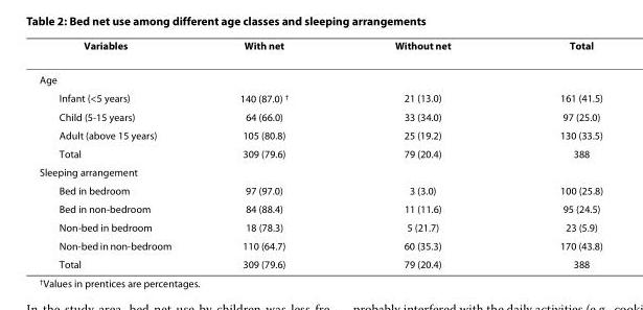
<table><thead><tr><td>Variables</td><td>With net</td><td>Without net</td><td>Total</td></tr></thead><tbody><tr><td colspan="4">Age</td></tr><tr><td>Infant (&lt;5 years)</td><td>140 (87.0) <sup>†</sup></td><td>21 (13.0)</td><td>161 (41.5)</td></tr><tr><td>Child (5-15 years)</td><td>64 (66.0)</td><td>33 (34.0)</td><td>97 (25.0)</td></tr><tr><td>Adult (above 15 years)</td><td>105 (80.8)</td><td>25 (19.2)</td><td>130 (33.5)</td></tr><tr><td>Total</td><td>309 (79.6)</td><td>79 (20.4)</td><td>388</td></tr><tr><td colspan="4">Sleeping arrangement</td></tr><tr><td>Bed in bedroom</td><td>97 (97.0)</td><td>3 (3.0)</td><td>100 (25.8)</td></tr><tr><td>Bed in non-bedroom</td><td>84 (88.4)</td><td>11 (11.6)</td><td>95 (24.5)</td></tr><tr><td>Non-bed in bedroom</td><td>18 (78.3)</td><td>5 (21.7)</td><td>23 (5.9)</td></tr><tr><td>Non-bed in non-bedroom</td><td>110 (64.7)</td><td>60 (35.3)</td><td>170 (43.8)</td></tr><tr><td>Total</td><td>309 (79.6)</td><td>79 (20.4)</td><td>388</td></tr></tbody></table>